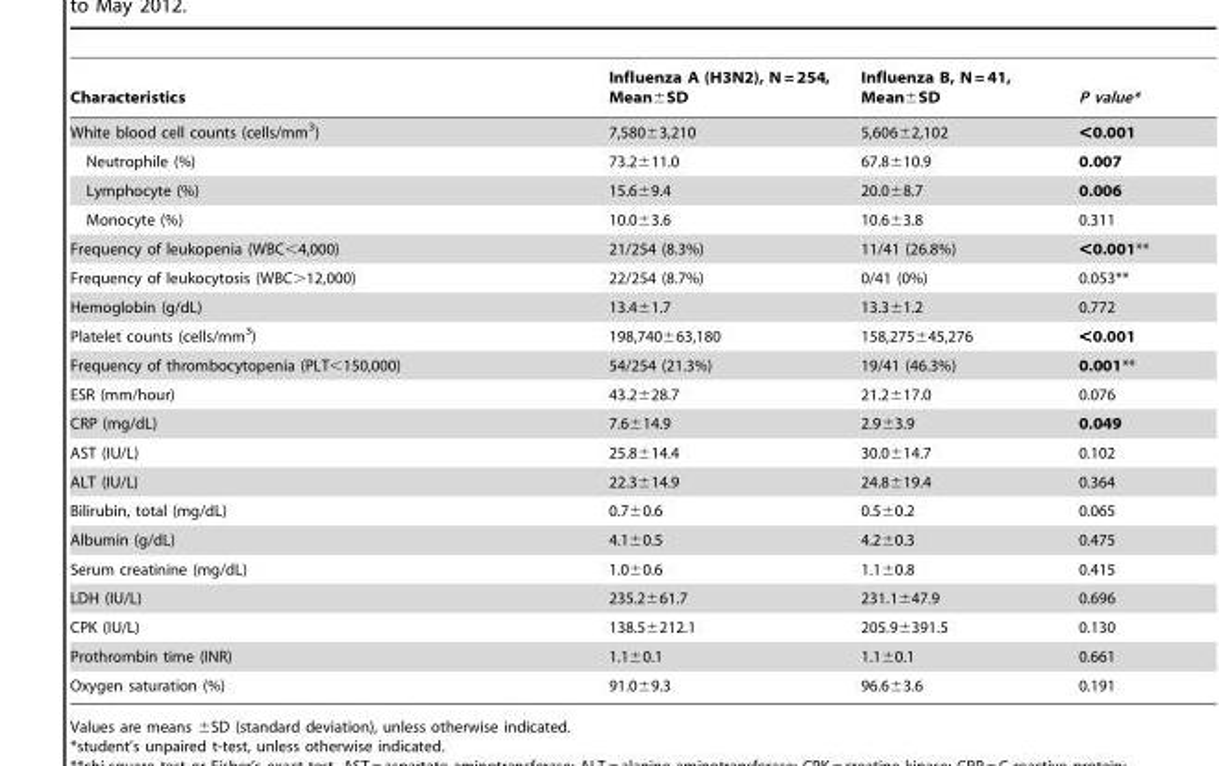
<table><thead><tr><td>Characteristics</td><td>Influenza A (H3N2), N = 254, Mean±SD</td><td>Influenza B, N = 41, Mean±SD</td><td>P value*</td></tr></thead><tbody><tr><td>White blood cell counts (cells/mm<sup>3</sup>)</td><td>7,580±3,210</td><td>5,606±2,102</td><td>&lt;0.001</td></tr><tr><td>Neutrophile (%)</td><td>73.2±11.0</td><td>67.8±10.9</td><td>0.007</td></tr><tr><td>Lymphocyte (%)</td><td>15.6±9.4</td><td>20.0±8.7</td><td>0.006</td></tr><tr><td>Monocyte (%)</td><td>10.0±3.6</td><td>10.6±3.8</td><td>0.311</td></tr><tr><td>Frequency of leukopenia (WBC&lt;4,000)</td><td>21/254 (8.3%)</td><td>11/41 (26.8%)</td><td>&lt;0.001**</td></tr><tr><td>Frequency of leukocytosis (WBC&gt;12,000)</td><td>22/254 (8.7%)</td><td>0/41 (0%)</td><td>0.053**</td></tr><tr><td>Hemoglobin (g/dL)</td><td>13.4±1.7</td><td>13.3±1.2</td><td>0.772</td></tr><tr><td>Platelet counts (cells/mm<sup>3</sup>)</td><td>198,740±63,180</td><td>158,275±45,276</td><td>&lt;0.001</td></tr><tr><td>Frequency of thrombocytopenia (PLT&lt;150,000)</td><td>54/254 (21.3%)</td><td>19/41 (46.3%)</td><td>0.001**</td></tr><tr><td>ESR (mm/hour)</td><td>43.2±28.7</td><td>21.2±17.0</td><td>0.076</td></tr><tr><td>CRP (mg/dL)</td><td>7.6±14.9</td><td>2.9±3.9</td><td>0.049</td></tr><tr><td>AST (IU/L)</td><td>25.8±14.4</td><td>30.0±14.7</td><td>0.102</td></tr><tr><td>ALT (IU/L)</td><td>22.3±14.9</td><td>24.8±19.4</td><td>0.364</td></tr><tr><td>Bilirubin, total (mg/dL)</td><td>0.7±0.6</td><td>0.5±0.2</td><td>0.065</td></tr><tr><td>Albumin (g/dL)</td><td>4.1±0.5</td><td>4.2±0.3</td><td>0.475</td></tr><tr><td>Serum creatinine (mg/dL)</td><td>1.0±0.6</td><td>1.1±0.8</td><td>0.415</td></tr><tr><td>LDH (IU/L)</td><td>235.2±61.7</td><td>231.1±47.9</td><td>0.696</td></tr><tr><td>CPK (IU/L)</td><td>138.5±212.1</td><td>205.9±391.5</td><td>0.130</td></tr><tr><td>Prothrombin time (INR)</td><td>1.1±0.1</td><td>1.1±0.1</td><td>0.661</td></tr><tr><td>Oxygen saturation (%)</td><td>91.0±9.3</td><td>96.6±3.6</td><td>0.191</td></tr></tbody></table>